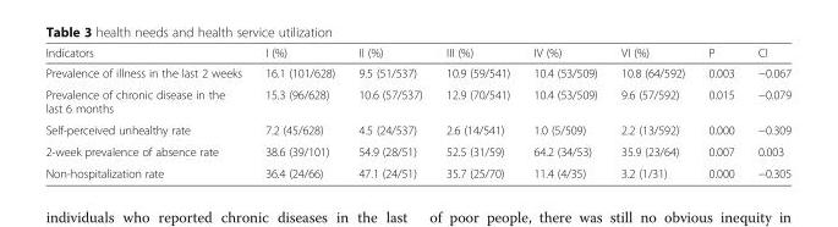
<table><thead><tr><td>Indicators</td><td>I (%)</td><td>II (%)</td><td>III (%)</td><td>IV (%)</td><td>VI (%)</td><td>P</td><td>CI</td></tr></thead><tbody><tr><td>Prevalence of illness in the last 2 weeks</td><td>16.1 (101/628)</td><td>9.5 (51/537)</td><td>10.9 (59/541)</td><td>10.4 (53/509)</td><td>10.8 (64/592)</td><td>0.003</td><td>−0.067</td></tr><tr><td>Prevalence of chronic disease in the last 6 months</td><td>15.3 (96/628)</td><td>10.6 (57/537)</td><td>12.9 (70/541)</td><td>10.4 (53/509)</td><td>9.6 (57/592)</td><td>0.015</td><td>−0.079</td></tr><tr><td>Self-perceived unhealthy rate</td><td>7.2 (45/628)</td><td>4.5 (24/537)</td><td>2.6 (14/541)</td><td>1.0 (5/509)</td><td>2.2 (13/592)</td><td>0.000</td><td>−0.309</td></tr><tr><td>2-week prevalence of absence rate</td><td>38.6 (39/101)</td><td>54.9 (28/51)</td><td>52.5 (31/59)</td><td>64.2 (34/53)</td><td>35.9 (23/64)</td><td>0.007</td><td>0.003</td></tr><tr><td>Non-hospitalization rate</td><td>36.4 (24/66)</td><td>47.1 (24/51)</td><td>35.7 (25/70)</td><td>11.4 (4/35)</td><td>3.2 (1/31)</td><td>0.000</td><td>−0.305</td></tr></tbody></table>